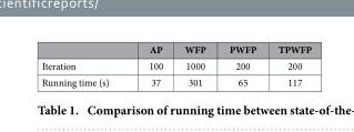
<table><thead><tr><td></td><td>AP</td><td>WFP</td><td>PWFP</td><td>TPWFP</td></tr></thead><tbody><tr><td>Iteration</td><td>100</td><td>1000</td><td>200</td><td>200</td></tr><tr><td>Running time (s)</td><td>37</td><td>301</td><td>65</td><td>117</td></tr></tbody></table>